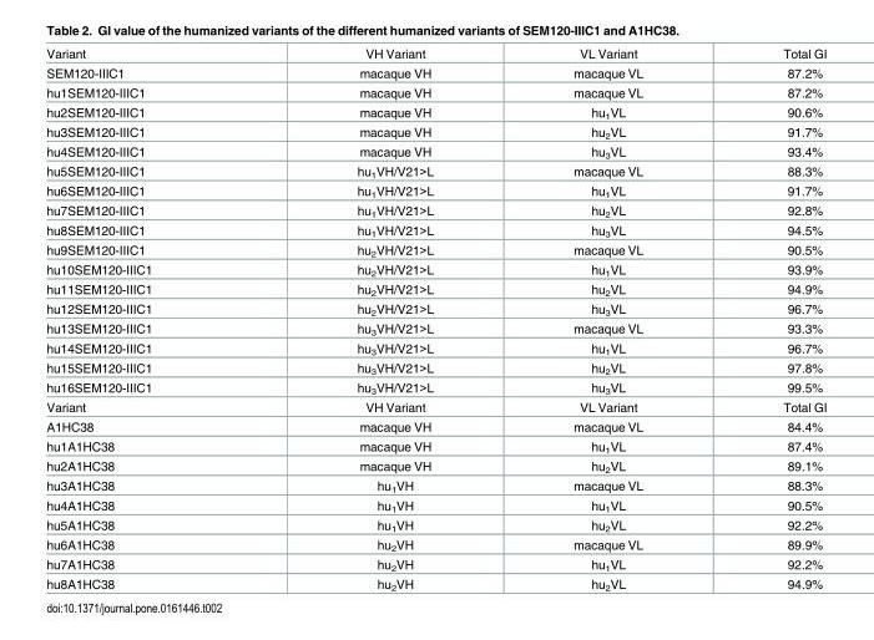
<table><tbody><tr><td>Variant</td><td>VH Variant</td><td>VL Variant</td><td>Total GI</td></tr><tr><td>SEM120-IIIC1</td><td>macaque VH</td><td>macaque VL</td><td>87.2%</td></tr><tr><td>hu1SEM120-IIIC1</td><td>macaque VH</td><td>macaque VL</td><td>87.2%</td></tr><tr><td>hu2SEM120-IIIC1</td><td>macaque VH</td><td>hu<sub>1</sub>VL</td><td>90.6%</td></tr><tr><td>hu3SEM120-IIIC1</td><td>macaque VH</td><td>hu<sub>2</sub>VL</td><td>91.7%</td></tr><tr><td>hu4SEM120-IIIC1</td><td>macaque VH</td><td>hu<sub>3</sub>VL</td><td>93.4%</td></tr><tr><td>hu5SEM120-IIIC1</td><td>hu<sub>1</sub>VH/V21&gt;L</td><td>macaque VL</td><td>88.3%</td></tr><tr><td>hu6SEM120-IIIC1</td><td>hu<sub>1</sub>VH/V21&gt;L</td><td>hu<sub>1</sub>VL</td><td>91.7%</td></tr><tr><td>hu7SEM120-IIIC1</td><td>hu<sub>1</sub>VH/V21&gt;L</td><td>hu<sub>2</sub>VL</td><td>92.8%</td></tr><tr><td>hu8SEM120-IIIC1</td><td>hu<sub>1</sub>VH/V21&gt;L</td><td>hu<sub>3</sub>VL</td><td>94.5%</td></tr><tr><td>hu9SEM120-IIIC1</td><td>hu<sub>2</sub>VH/V21&gt;L</td><td>macaque VL</td><td>90.5%</td></tr><tr><td>hu10SEM120-IIIC1</td><td>hu<sub>2</sub>VH/V21&gt;L</td><td>hu<sub>1</sub>VL</td><td>93.9%</td></tr><tr><td>hu11SEM120-IIIC1</td><td>hu<sub>2</sub>VH/V21&gt;L</td><td>hu<sub>2</sub>VL</td><td>94.9%</td></tr><tr><td>hu12SEM120-IIIC1</td><td>hu<sub>2</sub>VH/V21&gt;L</td><td>hu<sub>3</sub>VL</td><td>96.7%</td></tr><tr><td>hu13SEM120-IIIC1</td><td>hu<sub>3</sub>VH/V21&gt;L</td><td>macaque VL</td><td>93.3%</td></tr><tr><td>hu14SEM120-IIIC1</td><td>hu<sub>3</sub>VH/V21&gt;L</td><td>hu<sub>1</sub>VL</td><td>96.7%</td></tr><tr><td>hu15SEM120-IIIC1</td><td>hu<sub>3</sub>VH/V21&gt;L</td><td>hu<sub>2</sub>VL</td><td>97.8%</td></tr><tr><td>hu16SEM120-IIIC1</td><td>hu<sub>3</sub>VH/V21&gt;L</td><td>hu<sub>3</sub>VL</td><td>99.5%</td></tr><tr><td>Variant</td><td>VH Variant</td><td>VL Variant</td><td>Total GI</td></tr><tr><td>A1HC38</td><td>macaque VH</td><td>macaque VL</td><td>84.4%</td></tr><tr><td>hu1A1HC38</td><td>macaque VH</td><td>hu<sub>1</sub>VL</td><td>87.4%</td></tr><tr><td>hu2A1HC38</td><td>macaque VH</td><td>hu<sub>2</sub>VL</td><td>89.1%</td></tr><tr><td>hu3A1HC38</td><td>hu<sub>1</sub>VH</td><td>macaque VL</td><td>88.3%</td></tr><tr><td>hu4A1HC38</td><td>hu<sub>1</sub>VH</td><td>hu<sub>1</sub>VL</td><td>90.5%</td></tr><tr><td>hu5A1HC38</td><td>hu<sub>1</sub>VH</td><td>hu<sub>2</sub>VL</td><td>92.2%</td></tr><tr><td>hu6A1HC38</td><td>hu<sub>2</sub>VH</td><td>macaque VL</td><td>89.9%</td></tr><tr><td>hu7A1HC38</td><td>hu<sub>2</sub>VH</td><td>hu<sub>1</sub>VL</td><td>92.2%</td></tr><tr><td>hu8A1HC38</td><td>hu<sub>2</sub>VH</td><td>hu<sub>2</sub>VL</td><td>94.9%</td></tr></tbody></table>